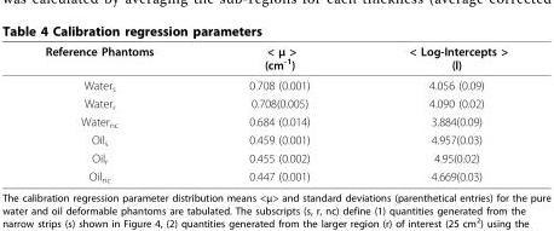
<table><thead><tr><td>Reference Phantoms</td><td>&lt; μ &gt; (cm<sup>-1</sup>)</td><td>&lt; Log-Intercepts &gt; (l)</td></tr></thead><tbody><tr><td>Water<sub>s</sub></td><td>0.708 (0.001)</td><td>4.056 (0.09)</td></tr><tr><td>Water<sub>r</sub></td><td>0.708(0.005)</td><td>4.090 (0.02)</td></tr><tr><td>Water<sub>nc</sub></td><td>0.684 (0.014)</td><td>3.884(0.09)</td></tr><tr><td>Oil<sub>s</sub></td><td>0.459 (0.001)</td><td>4.957(0.03)</td></tr><tr><td>Oil<sub>r</sub></td><td>0.455 (0.002)</td><td>4.95(0.02)</td></tr><tr><td>Oil<sub>nc</sub></td><td>0.447 (0.001)</td><td>4.669(0.03)</td></tr></tbody></table>